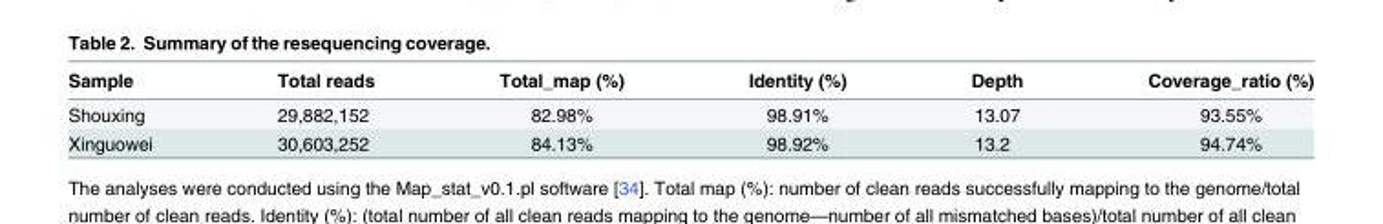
<table><thead><tr><td>Sample</td><td>Total reads</td><td>Total_map (%)</td><td>Identity (%)</td><td>Depth</td><td>Coverage_ratio (%)</td></tr></thead><tbody><tr><td>Shouxing</td><td>29,882,152</td><td>82.98%</td><td>98.91%</td><td>13.07</td><td>93.55%</td></tr><tr><td>Xinguowei</td><td>30,603,252</td><td>84.13%</td><td>98.92%</td><td>13.2</td><td>94.74%</td></tr></tbody></table>